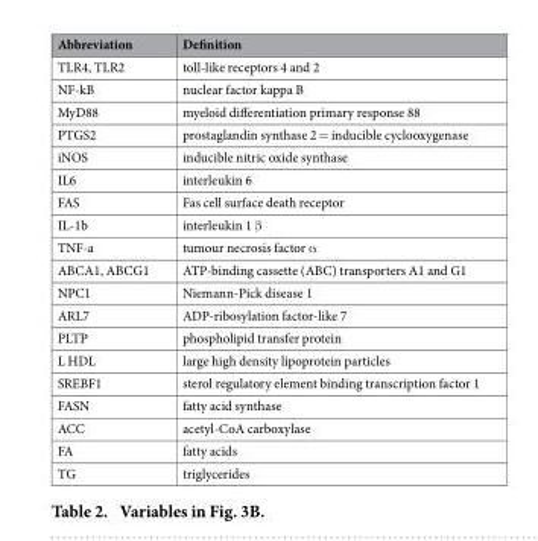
<table><thead><tr><td>TLR4, TLR2</td><td>toll-like receptors 4 and 2</td></tr></thead><tbody><tr><td>NF-kB</td><td>nuclear factor kappa B</td></tr><tr><td>MyD88</td><td>myeloid differentiation primary response 88</td></tr><tr><td>PTGS2</td><td>prostaglandin synthase 2 = inducible cyclooxygenase</td></tr><tr><td>iNOS</td><td>inducible nitric oxide synthase</td></tr><tr><td>IL6</td><td>interleukin 6</td></tr><tr><td>FAS</td><td>Fas cell surface death receptor</td></tr><tr><td>IL-1b</td><td>interleukin 1 β</td></tr><tr><td>TNF-a</td><td>tumour necrosis factor α</td></tr><tr><td>ABCA1, ABCG1</td><td>ATP-binding cassette (ABC) transporters A1 and G1</td></tr><tr><td>NPC1</td><td>Niemann-Pick disease 1</td></tr><tr><td>ARL7</td><td>ADP-ribosylation factor-like 7</td></tr><tr><td>PLTP</td><td>phospholipid transfer protein</td></tr><tr><td>L HDL</td><td>large high density lipoprotein particles</td></tr><tr><td>SREBF1</td><td>sterol regulatory element binding transcription factor 1</td></tr><tr><td>FASN</td><td>fatty acid synthase</td></tr><tr><td>ACC</td><td>acetyl-CoA carboxylase</td></tr><tr><td>FA</td><td>fatty acids</td></tr><tr><td>TG</td><td>triglycerides</td></tr></tbody></table>